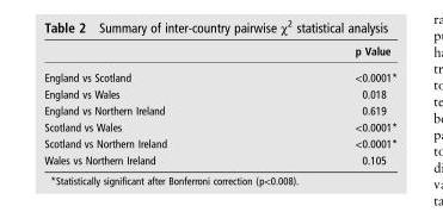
<table><thead><tr><td></td><td>p Value</td></tr></thead><tbody><tr><td>England vs Scotland</td><td>&lt;0.0001*</td></tr><tr><td>England vs Wales</td><td>0.018</td></tr><tr><td>England vs Northern Ireland</td><td>0.619</td></tr><tr><td>Scotland vs Wales</td><td>&lt;0.0001*</td></tr><tr><td>Scotland vs Northern Ireland</td><td>&lt;0.0001*</td></tr><tr><td>Wales vs Northern Ireland</td><td>0.105</td></tr></tbody></table>